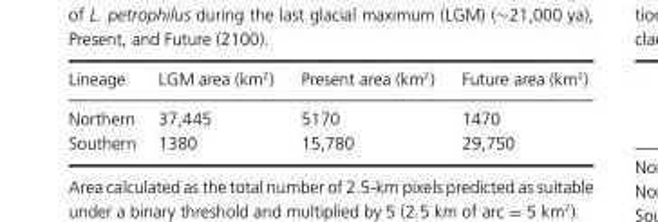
<table><thead><tr><td>Lineage</td><td>LGM area (km<sup>2</sup>)</td><td>Present area (km<sup>2</sup>)</td><td>Future area (km<sup>2</sup>)</td></tr></thead><tbody><tr><td>Northern</td><td>37,445</td><td>5170</td><td>1470</td></tr><tr><td>Southern</td><td>1380</td><td>15,780</td><td>29,750</td></tr></tbody></table>